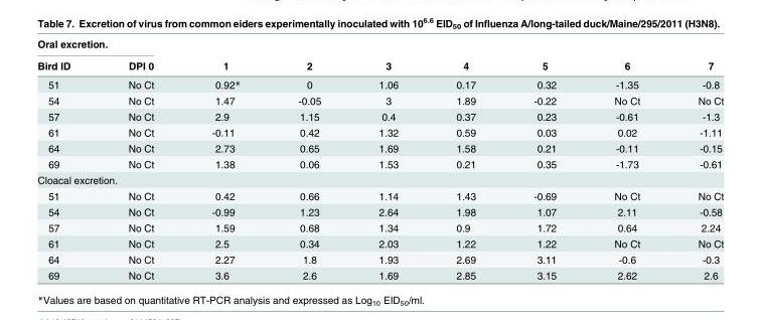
<table><thead><tr><td colspan="2">Oral excretion.</td><td rowspan="2">1</td><td rowspan="2">2</td><td rowspan="2">3</td><td rowspan="2">4</td><td rowspan="2">5</td><td rowspan="2">6</td><td rowspan="2">7</td></tr><tr><td>Bird ID</td><td>DPI 0</td></tr></thead><tbody><tr><td>51</td><td>No Ct</td><td>0.92*</td><td>0</td><td>1.06</td><td>0.17</td><td>0.32</td><td>-1.35</td><td>-0.8</td></tr><tr><td>54</td><td>No Ct</td><td>1.47</td><td>-0.05</td><td>3</td><td>1.89</td><td>-0.22</td><td>No Ct</td><td>No Ct</td></tr><tr><td>57</td><td>No Ct</td><td>2.9</td><td>1.15</td><td>0.4</td><td>0.37</td><td>0.23</td><td>-0.61</td><td>-1.3</td></tr><tr><td>61</td><td>No Ct</td><td>-0.11</td><td>0.42</td><td>1.32</td><td>0.59</td><td>0.03</td><td>0.02</td><td>-1.11</td></tr><tr><td>64</td><td>No Ct</td><td>2.73</td><td>0.65</td><td>1.69</td><td>1.58</td><td>0.21</td><td>-0.11</td><td>-0.15</td></tr><tr><td>69</td><td>No Ct</td><td>1.38</td><td>0.06</td><td>1.53</td><td>0.21</td><td>0.35</td><td>-1.73</td><td>-0.61</td></tr><tr><td colspan="9">Cloacal excretion.</td></tr><tr><td>51</td><td>No Ct</td><td>0.42</td><td>0.66</td><td>1.14</td><td>1.43</td><td>-0.69</td><td>No Ct</td><td>No Ct</td></tr><tr><td>54</td><td>No Ct</td><td>-0.99</td><td>1.23</td><td>2.64</td><td>1.98</td><td>1.07</td><td>2.11</td><td>-0.58</td></tr><tr><td>57</td><td>No Ct</td><td>1.59</td><td>0.68</td><td>1.34</td><td>0.9</td><td>1.72</td><td>0.64</td><td>2.24</td></tr><tr><td>61</td><td>No Ct</td><td>2.5</td><td>0.34</td><td>2.03</td><td>1.22</td><td>1.22</td><td>No Ct</td><td>No Ct</td></tr><tr><td>64</td><td>No Ct</td><td>2.27</td><td>1.8</td><td>1.93</td><td>2.69</td><td>3.11</td><td>-0.6</td><td>-0.3</td></tr><tr><td>69</td><td>No Ct</td><td>3.6</td><td>2.6</td><td>1.69</td><td>2.85</td><td>3.15</td><td>2.62</td><td>2.6</td></tr></tbody></table>